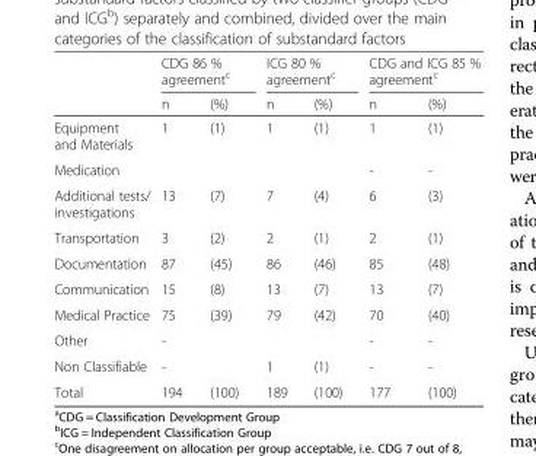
<table><thead><tr><td rowspan="2"></td><td colspan="2">CDG 86 % agreement<sup>c</sup></td><td colspan="2">ICG 80 % agreement<sup>c</sup></td><td colspan="2">CDG and ICG 85 % agreement<sup>c</sup></td></tr><tr><td>n</td><td>(%)</td><td>n</td><td>(%)</td><td>n</td><td>(%)</td></tr></thead><tbody><tr><td>Equipment and Materials</td><td>1</td><td>(1)</td><td>1</td><td>(1)</td><td>1</td><td>(1)</td></tr><tr><td>Medication</td><td></td><td></td><td></td><td></td><td>-</td><td>-</td></tr><tr><td>Additional tests/ investigations</td><td>13</td><td>(7)</td><td>7</td><td>(4)</td><td>6</td><td>(3)</td></tr><tr><td>Transportation</td><td>3</td><td>(2)</td><td>2</td><td>(1)</td><td>2</td><td>(1)</td></tr><tr><td>Documentation</td><td>87</td><td>(45)</td><td>86</td><td>(46)</td><td>85</td><td>(48)</td></tr><tr><td>Communication</td><td>15</td><td>(8)</td><td>13</td><td>(7)</td><td>13</td><td>(7)</td></tr><tr><td>Medical Practice</td><td>75</td><td>(39)</td><td>79</td><td>(42)</td><td>70</td><td>(40)</td></tr><tr><td>Other</td><td>-</td><td></td><td></td><td></td><td>-</td><td>-</td></tr><tr><td>Non Classifiable</td><td>-</td><td></td><td>1</td><td>(1)</td><td>-</td><td>-</td></tr><tr><td>Total</td><td>194</td><td>(100)</td><td>189</td><td>(100)</td><td>177</td><td>(100)</td></tr></tbody></table>